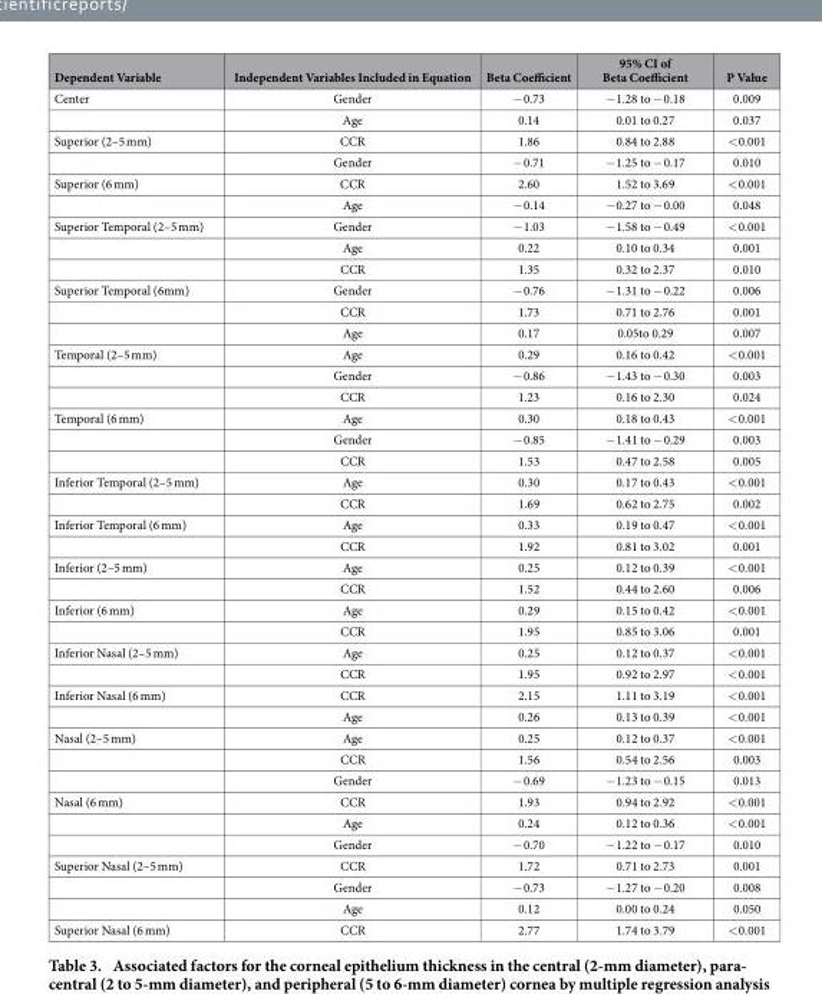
<table><thead><tr><td>Dependent Variable</td><td>Independent Variables Included in Equation</td><td>Beta Coefficient</td><td>95% CI of Beta Coefficient</td><td>P Value</td></tr></thead><tbody><tr><td rowspan="2">Center</td><td>Gender</td><td>− 0.73</td><td>− 1.28 to − 0.18</td><td>0.009</td></tr><tr><td>Age</td><td>0.14</td><td>0.01 to 0.27</td><td>0.037</td></tr><tr><td rowspan="2">Superior (2–5 mm)</td><td>CCR</td><td>1.86</td><td>0.84 to 2.88</td><td>&lt; 0.001</td></tr><tr><td>Gender</td><td>− 0.71</td><td>− 1.25 to − 0.17</td><td>0.010</td></tr><tr><td rowspan="2">Superior (6 mm)</td><td>CCR</td><td>2.60</td><td>1.52 to 3.69</td><td>&lt; 0.001</td></tr><tr><td>Age</td><td>− 0.14</td><td>− 0.27 to − 0.00</td><td>0.048</td></tr><tr><td rowspan="3">Superior Temporal (2–5 mm)</td><td>Gender</td><td>− 1.03</td><td>− 1.58 to − 0.49</td><td>&lt; 0.001</td></tr><tr><td>Age</td><td>0.22</td><td>0.10 to 0.34</td><td>0.001</td></tr><tr><td>CCR</td><td>1.35</td><td>0.32 to 2.37</td><td>0.010</td></tr><tr><td rowspan="3">Superior Temporal (6mm)</td><td>Gender</td><td>− 0.76</td><td>− 1.31 to − 0.22</td><td>0.006</td></tr><tr><td>CCR</td><td>1.73</td><td>0.71 to 2.76</td><td>0.001</td></tr><tr><td>Age</td><td>0.17</td><td>0.05to 0.29</td><td>0.007</td></tr><tr><td rowspan="3">Temporal (2–5 mm)</td><td>Age</td><td>0.29</td><td>0.16 to 0.42</td><td>&lt; 0.001</td></tr><tr><td>Gender</td><td>− 0.86</td><td>− 1.43 to − 0.30</td><td>0.003</td></tr><tr><td>CCR</td><td>1.23</td><td>0.16 to 2.30</td><td>0.024</td></tr><tr><td rowspan="3">Temporal (6 mm)</td><td>Age</td><td>0.30</td><td>0.18 to 0.43</td><td>&lt; 0.001</td></tr><tr><td>Gender</td><td>− 0.85</td><td>− 1.41 to − 0.29</td><td>0.003</td></tr><tr><td>CCR</td><td>1.53</td><td>0.47 to 2.58</td><td>0.005</td></tr><tr><td rowspan="2">Inferior Temporal (2–5 mm)</td><td>Age</td><td>0.30</td><td>0.17 to 0.43</td><td>&lt; 0.001</td></tr><tr><td>CCR</td><td>1.69</td><td>0.62 to 2.75</td><td>0.002</td></tr><tr><td rowspan="2">Inferior Temporal (6 mm)</td><td>Age</td><td>0.33</td><td>0.19 to 0.47</td><td>&lt; 0.001</td></tr><tr><td>CCR</td><td>1.92</td><td>0.81 to 3.02</td><td>0.001</td></tr><tr><td rowspan="2">Inferior (2–5 mm)</td><td>Age</td><td>0.25</td><td>0.12 to 0.39</td><td>&lt; 0.001</td></tr><tr><td>CCR</td><td>1.52</td><td>0.44 to 2.60</td><td>0.006</td></tr><tr><td rowspan="2">Inferior (6 mm)</td><td>Age</td><td>0.29</td><td>0.15 to 0.42</td><td>&lt; 0.001</td></tr><tr><td>CCR</td><td>1.95</td><td>0.85 to 3.06</td><td>0.001</td></tr><tr><td rowspan="2">Inferior Nasal (2–5 mm)</td><td>Age</td><td>0.25</td><td>0.12 to 0.37</td><td>&lt; 0.001</td></tr><tr><td>CCR</td><td>1.95</td><td>0.92 to 2.97</td><td>&lt; 0.001</td></tr><tr><td rowspan="2">Inferior Nasal (6 mm)</td><td>CCR</td><td>2.15</td><td>1.11 to 3.19</td><td>&lt; 0.001</td></tr><tr><td>Age</td><td>0.26</td><td>0.13 to 0.39</td><td>&lt; 0.001</td></tr><tr><td rowspan="3">Nasal (2–5 mm)</td><td>Age</td><td>0.25</td><td>0.12 to 0.37</td><td>&lt; 0.001</td></tr><tr><td>CCR</td><td>1.56</td><td>0.54 to 2.56</td><td>0.003</td></tr><tr><td>Gender</td><td>− 0.69</td><td>− 1.23 to − 0.15</td><td>0.013</td></tr><tr><td rowspan="3">Nasal (6 mm)</td><td>CCR</td><td>1.93</td><td>0.94 to 2.92</td><td>&lt; 0.001</td></tr><tr><td>Age</td><td>0.24</td><td>0.12 to 0.36</td><td>&lt; 0.001</td></tr><tr><td>Gender</td><td>− 0.70</td><td>− 1.22 to − 0.17</td><td>0.010</td></tr><tr><td rowspan="3">Superior Nasal (2–5 mm)</td><td>CCR</td><td>1.72</td><td>0.71 to 2.73</td><td>0.001</td></tr><tr><td>Gender</td><td>− 0.73</td><td>− 1.27 to − 0.20</td><td>0.008</td></tr><tr><td>Age</td><td>0.12</td><td>0.00 to 0.24</td><td>0.050</td></tr><tr><td>Superior Nasal (6 mm)</td><td>CCR</td><td>2.77</td><td>1.74 to 3.79</td><td>&lt; 0.001</td></tr></tbody></table>